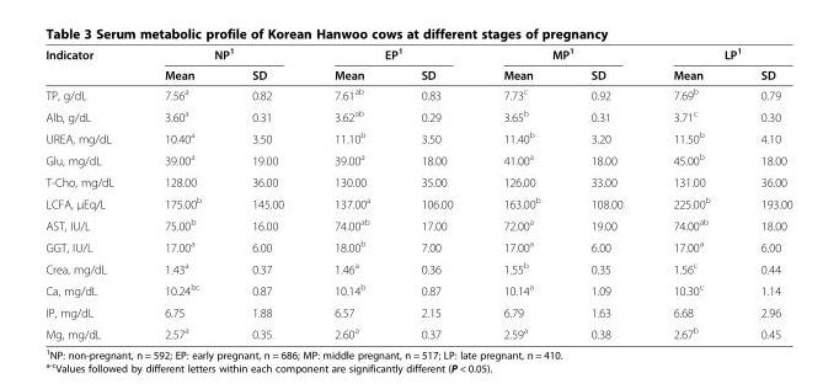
<table><thead><tr><td rowspan="2">Indicator</td><td colspan="2">NP<sup>1</sup></td><td colspan="2">EP<sup>1</sup></td><td colspan="2">MP<sup>1</sup></td><td colspan="2">LP<sup>1</sup></td></tr><tr><td>Mean</td><td>SD</td><td>Mean</td><td>SD</td><td>Mean</td><td>SD</td><td>Mean</td><td>SD</td></tr></thead><tbody><tr><td>TP, g/dL</td><td>7.56<sup>a</sup></td><td>0.82</td><td>7.61<sup>ab</sup></td><td>0.83</td><td>7.73<sup>c</sup></td><td>0.92</td><td>7.69<sup>b</sup></td><td>0.79</td></tr><tr><td>Alb, g/dL</td><td>3.60<sup>a</sup></td><td>0.31</td><td>3.62<sup>ab</sup></td><td>0.29</td><td>3.65<sup>b</sup></td><td>0.31</td><td>3.71<sup>c</sup></td><td>0.30</td></tr><tr><td>UREA, mg/dL</td><td>10.40<sup>a</sup></td><td>3.50</td><td>11.10<sup>b</sup></td><td>3.50</td><td>11.40<sup>b</sup></td><td>3.20</td><td>11.50<sup>b</sup></td><td>4.10</td></tr><tr><td>Glu, mg/dL</td><td>39.00<sup>a</sup></td><td>19.00</td><td>39.00<sup>a</sup></td><td>18.00</td><td>41.00<sup>a</sup></td><td>18.00</td><td>45.00<sup>b</sup></td><td>18.00</td></tr><tr><td>T-Cho, mg/dL</td><td>128.00</td><td>36.00</td><td>130.00</td><td>35.00</td><td>126.00</td><td>33.00</td><td>131.00</td><td>36.00</td></tr><tr><td>LCFA, μEq/L</td><td>175.00<sup>b</sup></td><td>145.00</td><td>137.00<sup>a</sup></td><td>106.00</td><td>163.00<sup>b</sup></td><td>108.00</td><td>225.00<sup>b</sup></td><td>193.00</td></tr><tr><td>AST, IU/L</td><td>75.00<sup>b</sup></td><td>16.00</td><td>74.00<sup>ab</sup></td><td>17.00</td><td>72.00<sup>a</sup></td><td>19.00</td><td>74.00<sup>ab</sup></td><td>18.00</td></tr><tr><td>GGT, IU/L</td><td>17.00<sup>a</sup></td><td>6.00</td><td>18.00<sup>b</sup></td><td>7.00</td><td>17.00<sup>a</sup></td><td>6.00</td><td>17.00<sup>a</sup></td><td>6.00</td></tr><tr><td>Crea, mg/dL</td><td>1.43<sup>a</sup></td><td>0.37</td><td>1.46<sup>a</sup></td><td>0.36</td><td>1.55<sup>b</sup></td><td>0.35</td><td>1.56<sup>c</sup></td><td>0.44</td></tr><tr><td>Ca, mg/dL</td><td>10.24<sup>bc</sup></td><td>0.87</td><td>10.14<sup>b</sup></td><td>0.87</td><td>10.14<sup>a</sup></td><td>1.09</td><td>10.30<sup>c</sup></td><td>1.14</td></tr><tr><td>IP, mg/dL</td><td>6.75</td><td>1.88</td><td>6.57</td><td>2.15</td><td>6.79</td><td>1.63</td><td>6.68</td><td>2.96</td></tr><tr><td>Mg, mg/dL</td><td>2.57<sup>a</sup></td><td>0.35</td><td>2.60<sup>a</sup></td><td>0.37</td><td>2.59<sup>a</sup></td><td>0.38</td><td>2.67<sup>b</sup></td><td>0.45</td></tr></tbody></table>